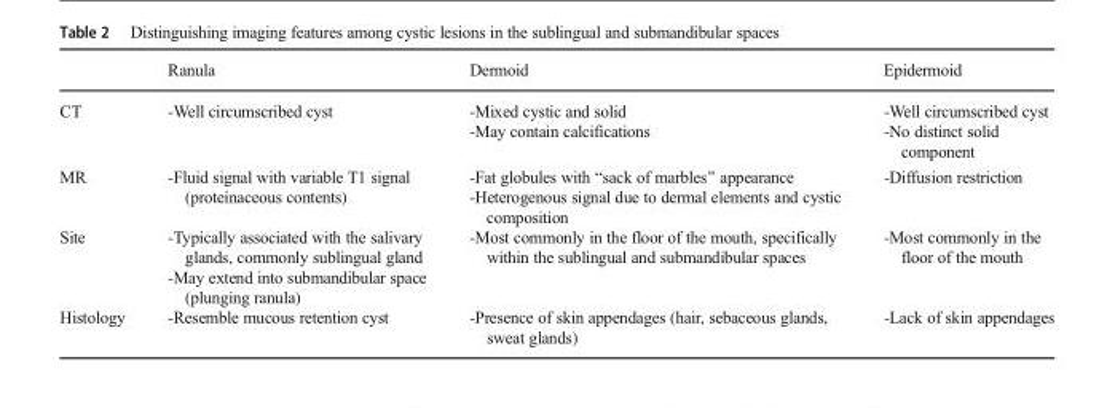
<table><thead><tr><td></td><td>Ranula</td><td>Dermoid</td><td>Epidermoid</td></tr></thead><tbody><tr><td>CT</td><td>-Well circumscribed cyst</td><td>-Mixed cystic and solid -May contain calcifications</td><td>-Well circumscribed cyst -No distinct solid component</td></tr><tr><td>MR</td><td>-Fluid signal with variable T1 signal (proteinaceous contents)</td><td>-Fat globules with “sack of marbles” appearance -Heterogenous signal due to dermal elements and cystic composition</td><td>-Diffusion restriction</td></tr><tr><td>Site</td><td>-Typically associated with the salivary glands, commonly sublingual gland -May extend into submandibular space (plunging ranula)</td><td>-Most commonly in the floor of the mouth, specifically within the sublingual and submandibular spaces</td><td>-Most commonly in the floor of the mouth</td></tr><tr><td>Histology</td><td>-Resemble mucous retention cyst</td><td>-Presence of skin appendages (hair, sebaceous glands, sweat glands)</td><td>-Lack of skin appendages</td></tr></tbody></table>